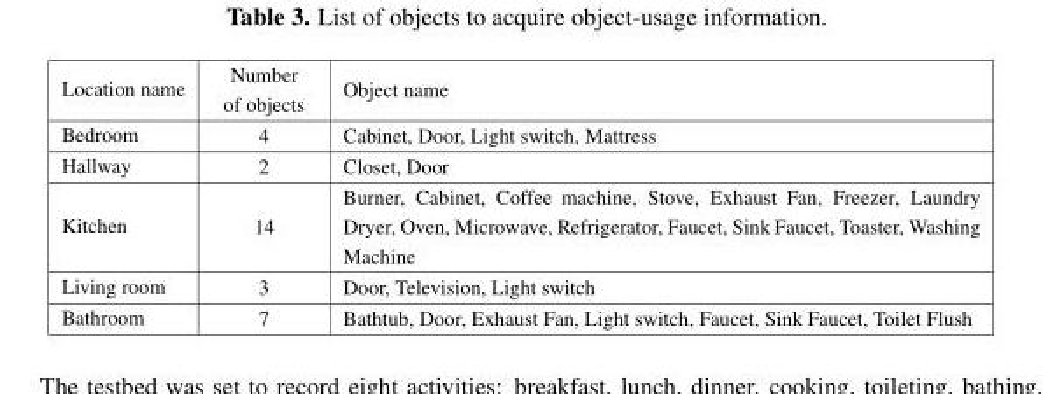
<table><thead><tr><td>Location name</td><td>Number of objects</td><td>Object name</td></tr></thead><tbody><tr><td>Bedroom</td><td>4</td><td>Cabinet, Door, Light switch, Mattress</td></tr><tr><td>Hallway</td><td>2</td><td>Closet, Door</td></tr><tr><td>Kitchen</td><td>14</td><td>Burner, Cabinet, Coffee machine, Stove, Exhaust Fan, Freezer, Laundry Dryer, Oven, Microwave, Refrigerator, Faucet, Sink Faucet, Toaster, Washing Machine</td></tr><tr><td>Living room</td><td>3</td><td>Door, Television, Light switch</td></tr><tr><td>Bathroom</td><td>7</td><td>Bathtub, Door, Exhaust Fan, Light switch, Faucet, Sink Faucet, Toilet Flush</td></tr></tbody></table>